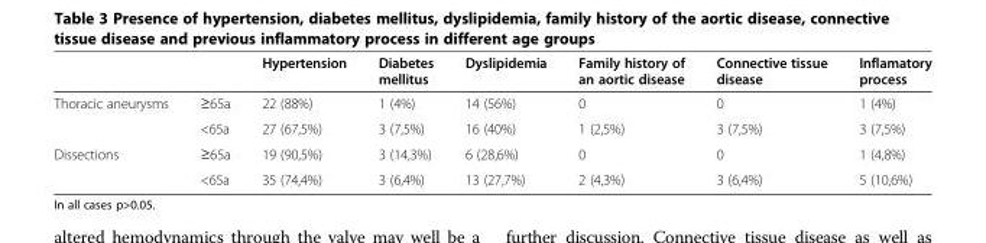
<table><thead><tr><td></td><td></td><td>Hypertension</td><td>Diabetes mellitus</td><td>Dyslipidemia</td><td>Family history of an aortic disease</td><td>Connective tissue disease</td><td>Inflamatory process</td></tr></thead><tbody><tr><td rowspan="2">Thoracic aneurysms</td><td>≥65a</td><td>22 (88%)</td><td>1 (4%)</td><td>14 (56%)</td><td>0</td><td>0</td><td>1 (4%)</td></tr><tr><td>&lt;65a</td><td>27 (67,5%)</td><td>3 (7,5%)</td><td>16 (40%)</td><td>1 (2,5%)</td><td>3 (7,5%)</td><td>3 (7,5%)</td></tr><tr><td rowspan="2">Dissections</td><td>≥65a</td><td>19 (90,5%)</td><td>3 (14,3%)</td><td>6 (28,6%)</td><td>0</td><td>0</td><td>1 (4,8%)</td></tr><tr><td>&lt;65a</td><td>35 (74,4%)</td><td>3 (6,4%)</td><td>13 (27,7%)</td><td>2 (4,3%)</td><td>3 (6,4%)</td><td>5 (10,6%)</td></tr></tbody></table>